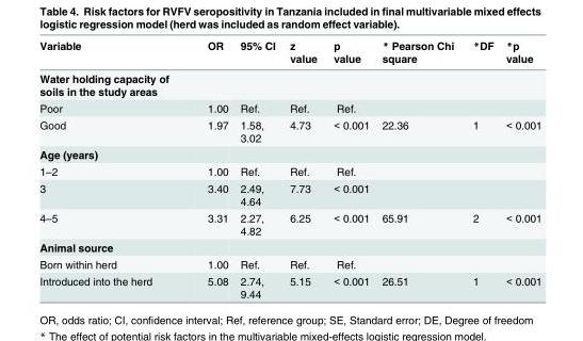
<table><thead><tr><td>Variable</td><td>OR</td><td>95% CI</td><td>z value</td><td>p value</td><td>* Pearson Chi square</td><td>*DF</td><td>*p value</td></tr></thead><tbody><tr><td colspan="8">Water holding capacity of soils in the study areas</td></tr><tr><td>Poor</td><td>1.00</td><td>Ref.</td><td>Ref.</td><td>Ref.</td><td></td><td></td><td></td></tr><tr><td>Good</td><td>1.97</td><td>1.58, 3.02</td><td>4.73</td><td>&lt; 0.001</td><td>22.36</td><td>1</td><td>&lt; 0.001</td></tr><tr><td colspan="8">Age (years)</td></tr><tr><td>1–2</td><td>1.00</td><td>Ref.</td><td>Ref.</td><td>Ref.</td><td></td><td></td><td></td></tr><tr><td>3</td><td>3.40</td><td>2.49, 4.64</td><td>7.73</td><td>&lt; 0.001</td><td></td><td></td><td></td></tr><tr><td>4–5</td><td>3.31</td><td>2.27, 4.82</td><td>6.25</td><td>&lt; 0.001</td><td>65.91</td><td>2</td><td>&lt; 0.001</td></tr><tr><td colspan="8">Animal source</td></tr><tr><td>Born within herd</td><td>1.00</td><td>Ref.</td><td>Ref.</td><td>Ref.</td><td></td><td></td><td></td></tr><tr><td>Introduced into the herd</td><td>5.08</td><td>2.74, 9.44</td><td>5.15</td><td>&lt; 0.001</td><td>26.51</td><td>1</td><td>&lt; 0.001</td></tr></tbody></table>